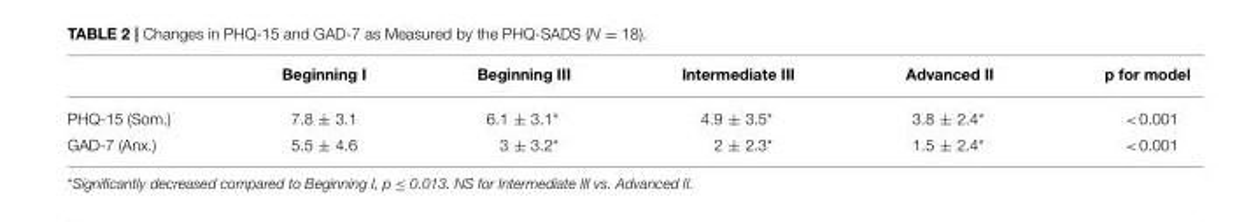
<table><thead><tr><td></td><td>Beginning I</td><td>Beginning III</td><td>Intermediate III</td><td>Advanced II</td><td>p for model</td></tr></thead><tbody><tr><td>PHQ-15 (Som.)</td><td>7.8 ± 3.1</td><td>6.1 ± 3.1*</td><td>4.9 ± 3.5*</td><td>3.8 ± 2.4*</td><td>&lt;0.001</td></tr><tr><td>GAD-7 (Anx.)</td><td>5.5 ± 4.6</td><td>3 ± 3.2*</td><td>2 ± 2.3*</td><td>1.5 ± 2.4*</td><td>&lt;0.001</td></tr></tbody></table>